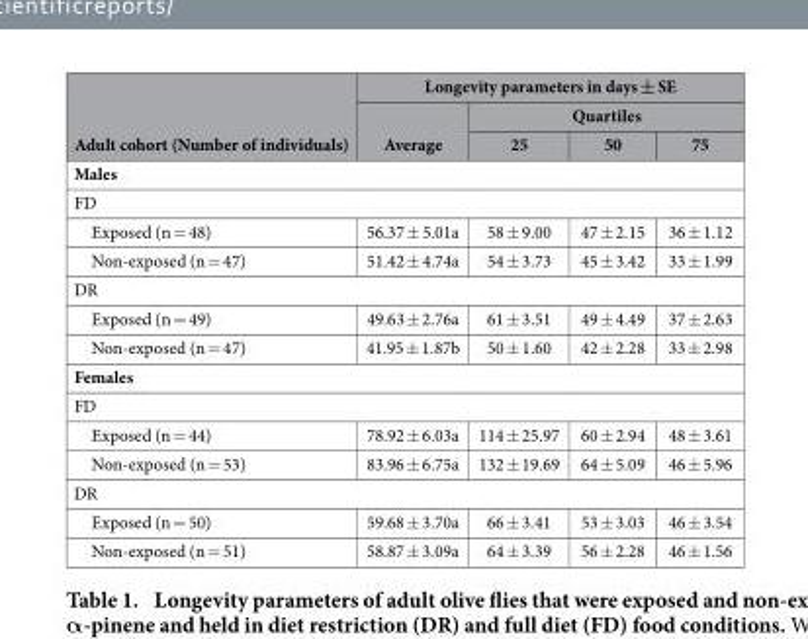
<table><thead><tr><td rowspan="3">Adult cohort (Number of individuals)</td><td colspan="4">Longevity parameters in days ± SE</td></tr><tr><td rowspan="2">Average</td><td colspan="3">Quartiles</td></tr><tr><td>25</td><td>50</td><td>75</td></tr></thead><tbody><tr><td colspan="5">Males</td></tr><tr><td colspan="5">FD</td></tr><tr><td>Exposed (n = 48)</td><td>56.37 ± 5.01a</td><td>58 ± 9.00</td><td>47 ± 2.15</td><td>36 ± 1.12</td></tr><tr><td>Non-exposed (n = 47)</td><td>51.42 ± 4.74a</td><td>54 ± 3.73</td><td>45 ± 3.42</td><td>33 ± 1.99</td></tr><tr><td colspan="5">DR</td></tr><tr><td>Exposed (n = 49)</td><td>49.63 ± 2.76a</td><td>61 ± 3.51</td><td>49 ± 4.49</td><td>37 ± 2.63</td></tr><tr><td>Non-exposed (n = 47)</td><td>41.95 ± 1.87b</td><td>50 ± 1.60</td><td>42 ± 2.28</td><td>33 ± 2.98</td></tr><tr><td colspan="5">Females</td></tr><tr><td colspan="5">FD</td></tr><tr><td>Exposed (n = 44)</td><td>78.92 ± 6.03a</td><td>114 ± 25.97</td><td>60 ± 2.94</td><td>48 ± 3.61</td></tr><tr><td>Non-exposed (n = 53)</td><td>83.96 ± 6.75a</td><td>132 ± 19.69</td><td>64 ± 5.09</td><td>46 ± 5.96</td></tr><tr><td colspan="5">DR</td></tr><tr><td>Exposed (n = 50)</td><td>59.68 ± 3.70a</td><td>66 ± 3.41</td><td>53 ± 3.03</td><td>46 ± 3.54</td></tr><tr><td>Non-exposed (n = 51)</td><td>58.87 ± 3.09a</td><td>64 ± 3.39</td><td>56 ± 2.28</td><td>46 ± 1.56</td></tr></tbody></table>